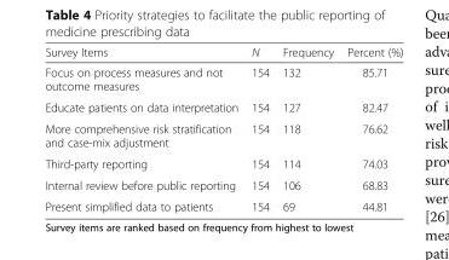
<table><thead><tr><td>Survey Items</td><td>N</td><td>Frequency</td><td>Percent (%)</td></tr></thead><tbody><tr><td>Focus on process measures and not outcome measures</td><td>154</td><td>132</td><td>85.71</td></tr><tr><td>Educate patients on data interpretation</td><td>154</td><td>127</td><td>82.47</td></tr><tr><td>More comprehensive risk stratification and case-mix adjustment</td><td>154</td><td>118</td><td>76.62</td></tr><tr><td>Third-party reporting</td><td>154</td><td>114</td><td>74.03</td></tr><tr><td>Internal review before public reporting</td><td>154</td><td>106</td><td>68.83</td></tr><tr><td>Present simplified data to patients</td><td>154</td><td>69</td><td>44.81</td></tr></tbody></table>